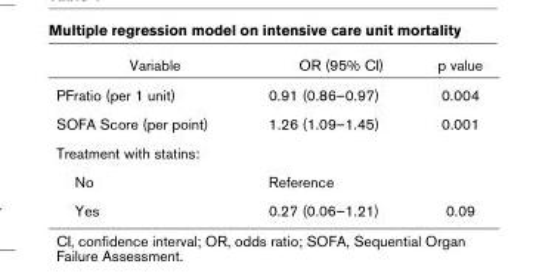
<table><thead><tr><td>Variable</td><td>OR (95% CI)</td><td>p value</td></tr></thead><tbody><tr><td>PFratio (per 1 unit)</td><td>0.91 (0.86–0.97)</td><td>0.004</td></tr><tr><td>SOFA Score (per point)</td><td>1.26 (1.09–1.45)</td><td>0.001</td></tr><tr><td colspan="3">Treatment with statins:</td></tr><tr><td>No</td><td>Reference</td><td></td></tr><tr><td>Yes</td><td>0.27 (0.06–1.21)</td><td>0.09</td></tr></tbody></table>